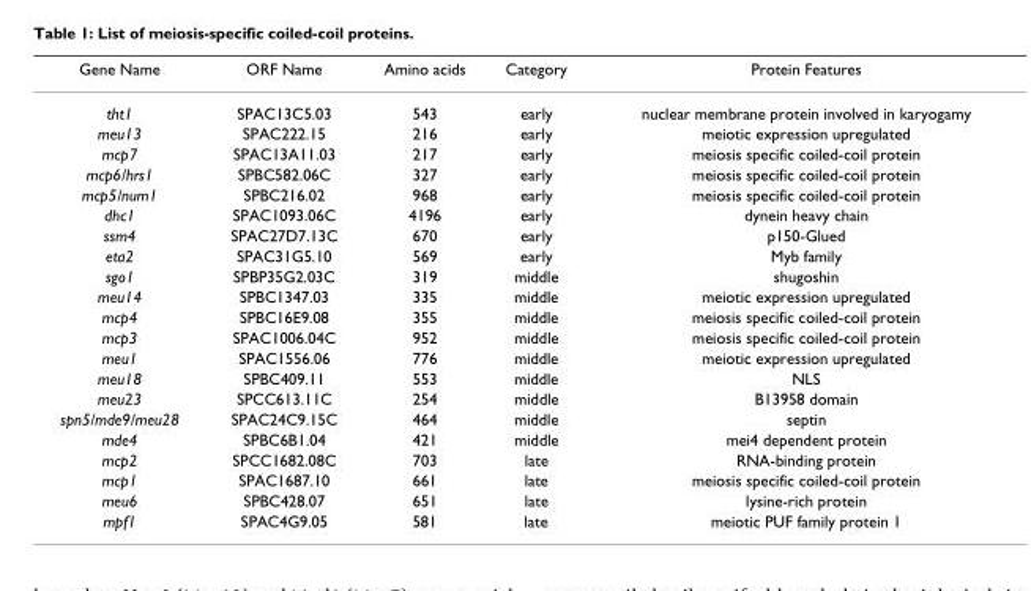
<table><thead><tr><td>Gene Name</td><td>ORF Name</td><td>Amino acids</td><td>Category</td><td>Protein Features</td></tr></thead><tbody><tr><td>tht1</td><td>SPAC13C5.03</td><td>543</td><td>early</td><td>nuclear membrane protein involved in karyogamy</td></tr><tr><td>meu13</td><td>SPAC222.15</td><td>216</td><td>early</td><td>meiotic expression upregulated</td></tr><tr><td>mcp7</td><td>SPAC13A11.03</td><td>217</td><td>early</td><td>meiosis specific coiled-coil protein</td></tr><tr><td>mcp6/hrs1</td><td>SPBC582.06C</td><td>327</td><td>early</td><td>meiosis specific coiled-coil protein</td></tr><tr><td>mcp5/num1</td><td>SPBC216.02</td><td>968</td><td>early</td><td>meiosis specific coiled-coil protein</td></tr><tr><td>dhc1</td><td>SPAC1093.06C</td><td>4196</td><td>early</td><td>dynein heavy chain</td></tr><tr><td>ssm4</td><td>SPAC27D7.13C</td><td>670</td><td>early</td><td>p150-Glued</td></tr><tr><td>eta2</td><td>SPAC31G5.10</td><td>569</td><td>early</td><td>Myb family</td></tr><tr><td>sgo1</td><td>SPBP35G2.03C</td><td>319</td><td>middle</td><td>shugoshin</td></tr><tr><td>meu14</td><td>SPBC1347.03</td><td>335</td><td>middle</td><td>meiotic expression upregulated</td></tr><tr><td>mcp4</td><td>SPBC16E9.08</td><td>355</td><td>middle</td><td>meiosis specific coiled-coil protein</td></tr><tr><td>mcp3</td><td>SPAC1006.04C</td><td>952</td><td>middle</td><td>meiosis specific coiled-coil protein</td></tr><tr><td>meu1</td><td>SPAC1556.06</td><td>776</td><td>middle</td><td>meiotic expression upregulated</td></tr><tr><td>meu18</td><td>SPBC409.11</td><td>553</td><td>middle</td><td>NLS</td></tr><tr><td>meu23</td><td>SPCC613.11C</td><td>254</td><td>middle</td><td>B13958 domain</td></tr><tr><td>spn5/mde9/meu28</td><td>SPAC24C9.15C</td><td>464</td><td>middle</td><td>septin</td></tr><tr><td>mde4</td><td>SPBC6B1.04</td><td>421</td><td>middle</td><td>mei4 dependent protein</td></tr><tr><td>mcp2</td><td>SPCC1682.08C</td><td>703</td><td>late</td><td>RNA-binding protein</td></tr><tr><td>mcp1</td><td>SPAC1687.10</td><td>661</td><td>late</td><td>meiosis specific coiled-coil protein</td></tr><tr><td>meu6</td><td>SPBC428.07</td><td>651</td><td>late</td><td>lysine-rich protein</td></tr><tr><td>mpf1</td><td>SPAC4G9.05</td><td>581</td><td>late</td><td>meiotic PUF family protein 1</td></tr></tbody></table>